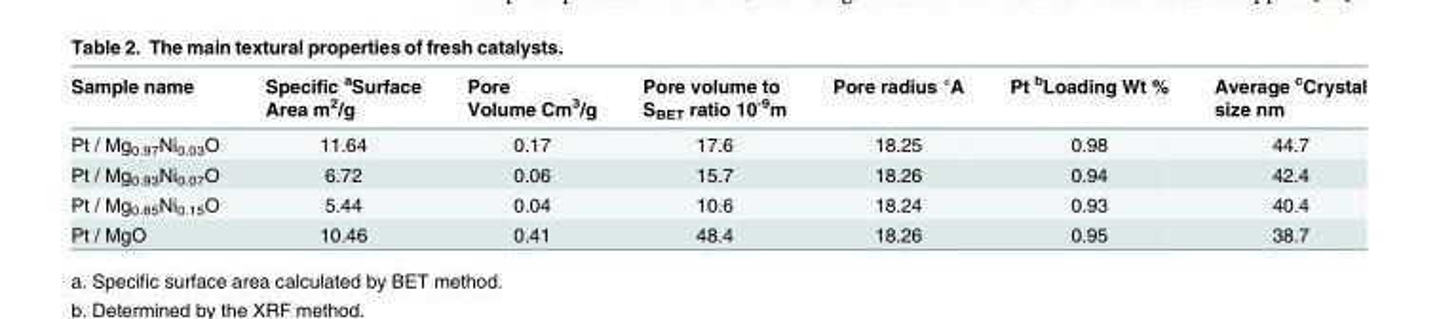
<table><thead><tr><td>Sample name</td><td>Specific <sup>a</sup>Surface Area m<sup>2</sup>/g</td><td>Pore Volume Cm<sup>3</sup>/g</td><td>Pore volume to S<sub>BET</sub> ratio 10<sup>-9</sup>m</td><td>Pore radius °A</td><td>Pt <sup>b</sup>Loading Wt %</td><td>Average <sup>c</sup>Crystal size nm</td></tr></thead><tbody><tr><td>Pt / Mg<sub>0.97</sub>Ni<sub>0.03</sub>O</td><td>11.64</td><td>0.17</td><td>17.6</td><td>18.25</td><td>0.98</td><td>44.7</td></tr><tr><td>Pt / Mg<sub>0.93</sub>Ni<sub>0.07</sub>O</td><td>6.72</td><td>0.06</td><td>15.7</td><td>18.26</td><td>0.94</td><td>42.4</td></tr><tr><td>Pt / Mg<sub>0.85</sub>Ni<sub>0.15</sub>O</td><td>5.44</td><td>0.04</td><td>10.6</td><td>18.24</td><td>0.93</td><td>40.4</td></tr><tr><td>Pt / MgO</td><td>10.46</td><td>0.41</td><td>48.4</td><td>18.26</td><td>0.95</td><td>38.7</td></tr></tbody></table>